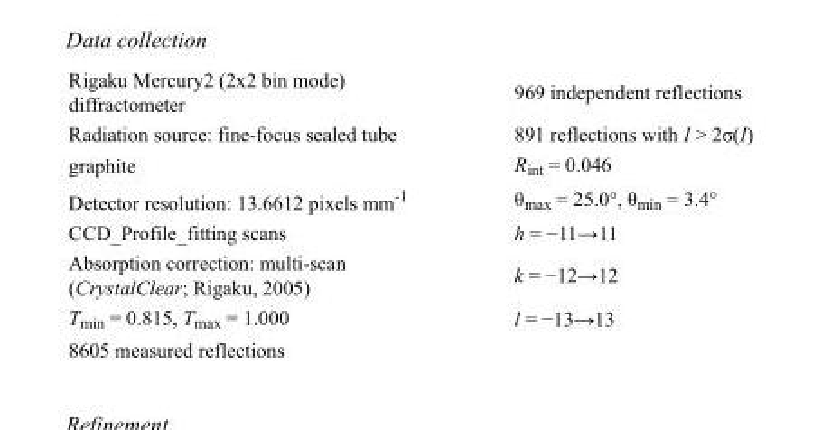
<table><tbody><tr><td>Rigaku Mercury2 (2x2 bin mode) diffractometer</td><td>969 independent reflections</td></tr><tr><td>Radiation source: fine-focus sealed tube</td><td>891 reflections with I &gt; 2σ(I)</td></tr><tr><td>graphite</td><td>R<sub>int</sub> = 0.046</td></tr><tr><td>Detector resolution: 13.6612 pixels mm<sup>-1</sup></td><td>θ<sub>max</sub> = 25.0°, θ<sub>min</sub> = 3.4°</td></tr><tr><td>CCD_Profile_fitting scans</td><td>h = −11→11</td></tr><tr><td>Absorption correction: multi-scan (CrystalClear; Rigaku, 2005)</td><td>k = −12→12</td></tr><tr><td>T<sub>min</sub> = 0.815, T<sub>max</sub> = 1.000</td><td>l = −13→13</td></tr><tr><td>8605 measured reflections</td><td></td></tr></tbody></table>